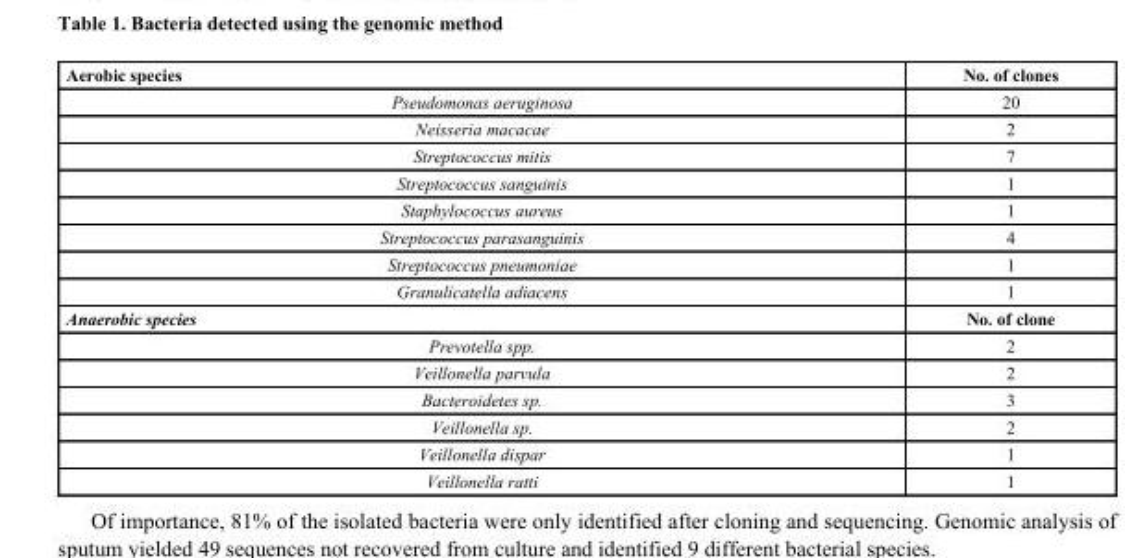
<table><thead><tr><td>Aerobic species</td><td>No. of clones</td></tr></thead><tbody><tr><td>Pseudomonas aeruginosa</td><td>20</td></tr><tr><td>Neisseria macacae</td><td>2</td></tr><tr><td>Streptococcus mitis</td><td>7</td></tr><tr><td>Streptococcus sanguinis</td><td>1</td></tr><tr><td>Staphylococcus aureus</td><td>1</td></tr><tr><td>Streptococcus parasanguinis</td><td>4</td></tr><tr><td>Streptococcus pneumoniae</td><td>1</td></tr><tr><td>Granulicatella adiacens</td><td>1</td></tr><tr><td>Anaerobic species</td><td>No. of clone</td></tr><tr><td>Prevotella spp.</td><td>2</td></tr><tr><td>Veillonella parvula</td><td>2</td></tr><tr><td>Bacteroidetes sp.</td><td>3</td></tr><tr><td>Veillonella sp.</td><td>2</td></tr><tr><td>Veillonella dispar</td><td>1</td></tr><tr><td>Veillonella ratti</td><td>1</td></tr></tbody></table>